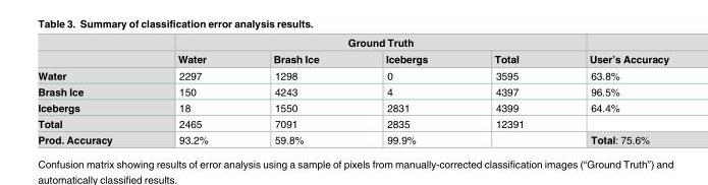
<table><thead><tr><td rowspan="2"></td><td colspan="4">Ground Truth</td><td rowspan="2">User’s Accuracy</td></tr><tr><td>Water</td><td>Brash Ice</td><td>Icebergs</td><td>Total</td></tr></thead><tbody><tr><td>Water</td><td>2297</td><td>1298</td><td>0</td><td>3595</td><td>63.8%</td></tr><tr><td>Brash Ice</td><td>150</td><td>4243</td><td>4</td><td>4397</td><td>96.5%</td></tr><tr><td>Icebergs</td><td>18</td><td>1550</td><td>2831</td><td>4399</td><td>64.4%</td></tr><tr><td>Total</td><td>2465</td><td>7091</td><td>2835</td><td>12391</td><td></td></tr><tr><td>Prod. Accuracy</td><td>93.2%</td><td>59.8%</td><td>99.9%</td><td></td><td>Total: 75.6%</td></tr></tbody></table>